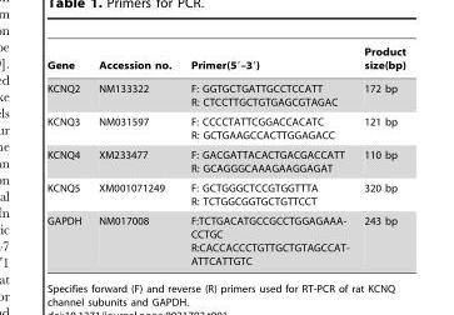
<table><thead><tr><td>Gene</td><td>Accession no.</td><td>Primer(5′–3′)</td><td>Product size(bp)</td></tr></thead><tbody><tr><td>KCNQ2</td><td>NM133322</td><td>F: GGTGCTGATTGCCTCCATT R: CTCCTTGCTGTGAGCGTAGAC</td><td>172 bp</td></tr><tr><td>KCNQ3</td><td>NM031597</td><td>F: CCCCTATTCGGACCACATC R: GCTGAAGCCACTTGGAGACC</td><td>121 bp</td></tr><tr><td>KCNQ4</td><td>XM233477</td><td>F: GACGATTACACTGACGACCATT R: GCAGGGCAAAGAAGGAGAT</td><td>110 bp</td></tr><tr><td>KCNQ5</td><td>XM001071249</td><td>F: GCTGGGCTCCGTGGTTTA R: TCTGGCGGTGCTGTTCCT</td><td>320 bp</td></tr><tr><td>GAPDH</td><td>NM017008</td><td>F:TCTGACATGCCGCCTGGAGAAA- CCTGC R:CACCACCCTGTTGCTGTAGCCAT- ATTCATTGTC</td><td>243 bp</td></tr></tbody></table>